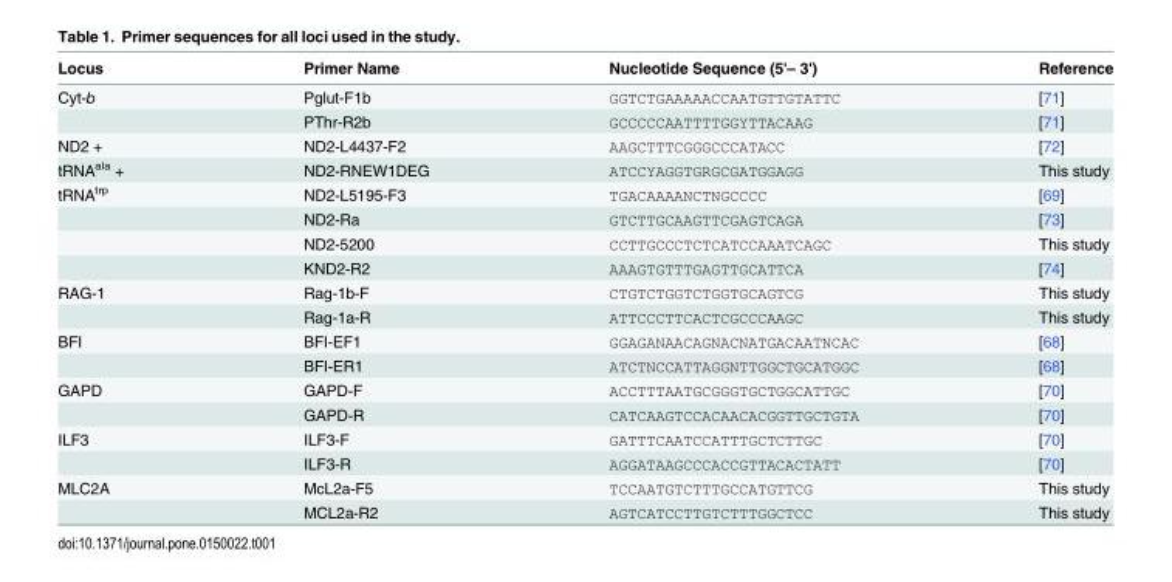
<table><thead><tr><td>Locus</td><td>Primer Name</td><td>Nucleotide Sequence (5&#x27;– 3&#x27;)</td><td>Reference</td></tr></thead><tbody><tr><td rowspan="2">Cyt-b</td><td>Pglut-F1b</td><td>GGTCTGAAAAACCAATGTTGTATTC</td><td>[71]</td></tr><tr><td>PThr-R2b</td><td>GCCCCCAATTTTGGYTTACAAG</td><td>[71]</td></tr><tr><td>ND2 +</td><td>ND2-L4437-F2</td><td>AAGCTTTCGGGCCCATACC</td><td>[72]</td></tr><tr><td>tRNA<sup>ala</sup> +</td><td>ND2-RNEW1DEG</td><td>ATCCYAGGTGRGCGATGGAGG</td><td>This study</td></tr><tr><td rowspan="4">tRNA<sup>trp</sup></td><td>ND2-L5195-F3</td><td>TGACAAAANCTNGCCCC</td><td>[69]</td></tr><tr><td>ND2-Ra</td><td>GTCTTGCAAGTTCGAGTCAGA</td><td>[73]</td></tr><tr><td>ND2-5200</td><td>CCTTGCCCTCTCATCCAAATCAGC</td><td>This study</td></tr><tr><td>KND2-R2</td><td>AAAGTGTTTGAGTTGCATTCA</td><td>[74]</td></tr><tr><td rowspan="2">RAG-1</td><td>Rag-1b-F</td><td>CTGTCTGGTCTGGTGCAGTCG</td><td>This study</td></tr><tr><td>Rag-1a-R</td><td>ATTCCCTTCACTCGCCCAAGC</td><td>This study</td></tr><tr><td rowspan="2">BFI</td><td>BFI-EF1</td><td>GGAGANAACAGNACNATGACAATNCAC</td><td>[68]</td></tr><tr><td>BFI-ER1</td><td>ATCTNCCATTAGGNTTGGCTGCATGGC</td><td>[68]</td></tr><tr><td rowspan="2">GAPD</td><td>GAPD-F</td><td>ACCTTTAATGCGGGTGCTGGCATTGC</td><td>[70]</td></tr><tr><td>GAPD-R</td><td>CATCAAGTCCACAACACGGTTGCTGTA</td><td>[70]</td></tr><tr><td rowspan="2">ILF3</td><td>ILF3-F</td><td>GATTTCAATCCATTTGCTCTTGC</td><td>[70]</td></tr><tr><td>ILF3-R</td><td>AGGATAAGCCCACCGTTACACTATT</td><td>[70]</td></tr><tr><td rowspan="2">MLC2A</td><td>McL2a-F5</td><td>TCCAATGTCTTTGCCATGTTCG</td><td>This study</td></tr><tr><td>MCL2a-R2</td><td>AGTCATCCTTGTCTTTGGCTCC</td><td>This study</td></tr></tbody></table>